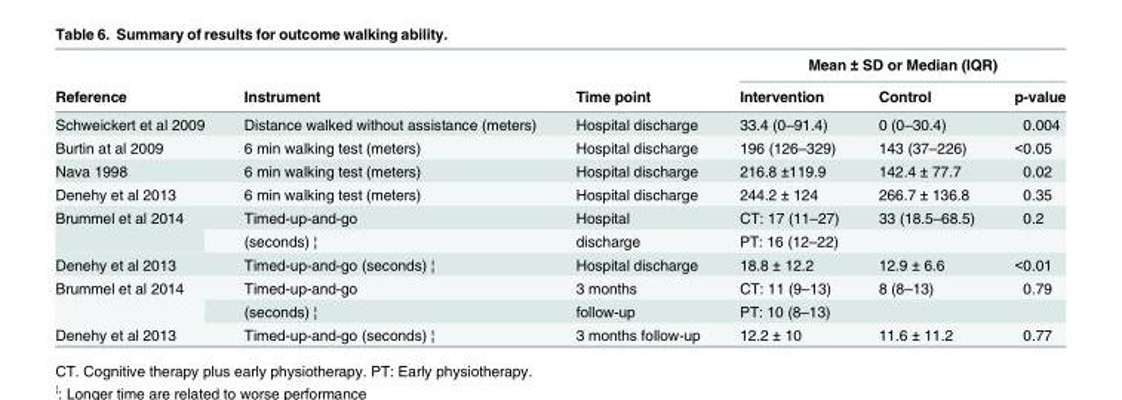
<table><thead><tr><td rowspan="2">Reference</td><td rowspan="2">Instrument</td><td rowspan="2">Time point</td><td colspan="3">Mean ± SD or Median (IQR)</td></tr><tr><td>Intervention</td><td>Control</td><td>p-value</td></tr></thead><tbody><tr><td>Schweickert et al 2009</td><td>Distance walked without assistance (meters)</td><td>Hospital discharge</td><td>33.4 (0–91.4)</td><td>0 (0–30.4)</td><td>0.004</td></tr><tr><td>Burtin at al 2009</td><td>6 min walking test (meters)</td><td>Hospital discharge</td><td>196 (126–329)</td><td>143 (37–226)</td><td>&lt;0.05</td></tr><tr><td>Nava 1998</td><td>6 min walking test (meters)</td><td>Hospital discharge</td><td>216.8 ±119.9</td><td>142.4 ± 77.7</td><td>0.02</td></tr><tr><td>Denehy et al 2013</td><td>6 min walking test (meters)</td><td>Hospital discharge</td><td>244.2 ± 124</td><td>266.7 ± 136.8</td><td>0.35</td></tr><tr><td rowspan="2">Brummel et al 2014</td><td>Timed-up-and-go</td><td>Hospital</td><td>CT: 17 (11–27)</td><td>33 (18.5–68.5)</td><td>0.2</td></tr><tr><td>(seconds) ¦</td><td>discharge</td><td>PT: 16 (12–22)</td><td></td><td></td></tr><tr><td>Denehy et al 2013</td><td>Timed-up-and-go (seconds) ¦</td><td>Hospital discharge</td><td>18.8 ± 12.2</td><td>12.9 ± 6.6</td><td>&lt;0.01</td></tr><tr><td rowspan="2">Brummel et al 2014</td><td>Timed-up-and-go</td><td>3 months</td><td>CT: 11 (9–13)</td><td>8 (8–13)</td><td>0.79</td></tr><tr><td>(seconds) ¦</td><td>follow-up</td><td>PT: 10 (8–13)</td><td></td><td></td></tr><tr><td>Denehy et al 2013</td><td>Timed-up-and-go (seconds) ¦</td><td>3 months follow-up</td><td>12.2 ± 10</td><td>11.6 ± 11.2</td><td>0.77</td></tr></tbody></table>